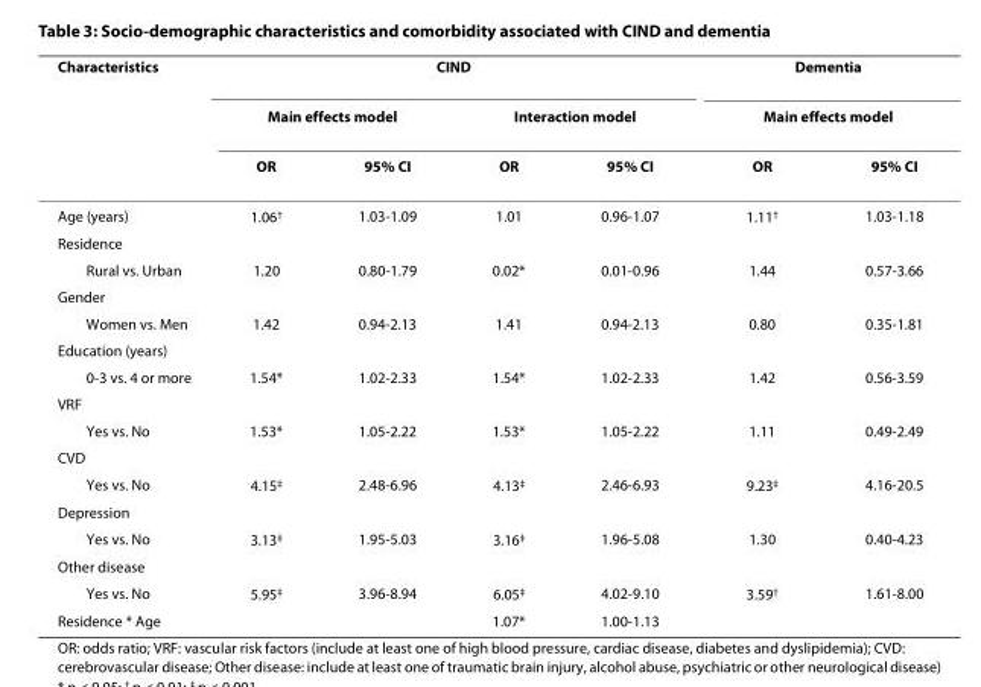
<table><thead><tr><td rowspan="3">Characteristics</td><td colspan="4">CIND</td><td rowspan="2" colspan="2">Dementia Main effects model</td></tr><tr><td colspan="2">Main effects model</td><td colspan="2">Interaction model</td></tr><tr><td>OR</td><td>95% CI</td><td>OR</td><td>95% CI</td><td>OR</td><td>95% CI</td></tr></thead><tbody><tr><td>Age (years)</td><td>1.06<sup>†</sup></td><td>1.03-1.09</td><td>1.01</td><td>0.96-1.07</td><td>1.11<sup>†</sup></td><td>1.03-1.18</td></tr><tr><td colspan="7">Residence</td></tr><tr><td>Rural vs. Urban</td><td>1.20</td><td>0.80-1.79</td><td>0.02*</td><td>0.01-0.96</td><td>1.44</td><td>0.57-3.66</td></tr><tr><td colspan="7">Gender</td></tr><tr><td>Women vs. Men</td><td>1.42</td><td>0.94-2.13</td><td>1.41</td><td>0.94-2.13</td><td>0.80</td><td>0.35-1.81</td></tr><tr><td colspan="7">Education (years)</td></tr><tr><td>0-3 vs. 4 or more</td><td>1.54*</td><td>1.02-2.33</td><td>1.54*</td><td>1.02-2.33</td><td>1.42</td><td>0.56-3.59</td></tr><tr><td colspan="7">VRF</td></tr><tr><td>Yes vs. No</td><td>1.53*</td><td>1.05-2.22</td><td>1.53*</td><td>1.05-2.22</td><td>1.11</td><td>0.49-2.49</td></tr><tr><td colspan="7">CVD</td></tr><tr><td>Yes vs. No</td><td>4.15<sup>‡</sup></td><td>2.48-6.96</td><td>4.13<sup>‡</sup></td><td>2.46-6.93</td><td>9.23<sup>‡</sup></td><td>4.16-20.5</td></tr><tr><td colspan="7">Depression</td></tr><tr><td>Yes vs. No</td><td>3.13<sup>‡</sup></td><td>1.95-5.03</td><td>3.16<sup>‡</sup></td><td>1.96-5.08</td><td>1.30</td><td>0.40-4.23</td></tr><tr><td colspan="7">Other disease</td></tr><tr><td>Yes vs. No</td><td>5.95<sup>‡</sup></td><td>3.96-8.94</td><td>6.05<sup>‡</sup></td><td>4.02-9.10</td><td>3.59<sup>†</sup></td><td>1.61-8.00</td></tr><tr><td>Residence * Age</td><td></td><td></td><td>1.07*</td><td>1.00-1.13</td><td></td><td></td></tr></tbody></table>